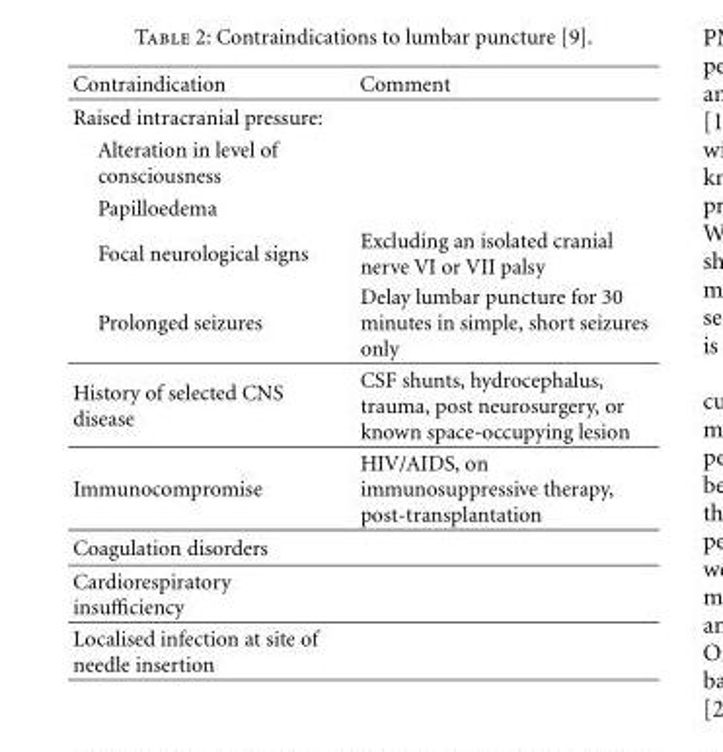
<table><thead><tr><td>Contraindication</td><td>Comment</td></tr></thead><tbody><tr><td colspan="2">Raised intracranial pressure:</td></tr><tr><td colspan="2">Alteration in level of consciousness</td></tr><tr><td colspan="2">Papilloedema</td></tr><tr><td>Focal neurological signs</td><td>Excluding an isolated cranial nerve VI or VII palsy</td></tr><tr><td>Prolonged seizures</td><td>Delay lumbar puncture for 30 minutes in simple, short seizures only</td></tr><tr><td>History of selected CNS disease</td><td>CSF shunts, hydrocephalus, trauma, post neurosurgery, or known space-occupying lesion</td></tr><tr><td>Immunocompromise</td><td>HIV/AIDS, on immunosuppressive therapy, post-transplantation</td></tr><tr><td colspan="2">Coagulation disorders</td></tr><tr><td colspan="2">Cardiorespiratory insufficiency</td></tr><tr><td>Localised infection at site of needle insertion</td><td></td></tr></tbody></table>